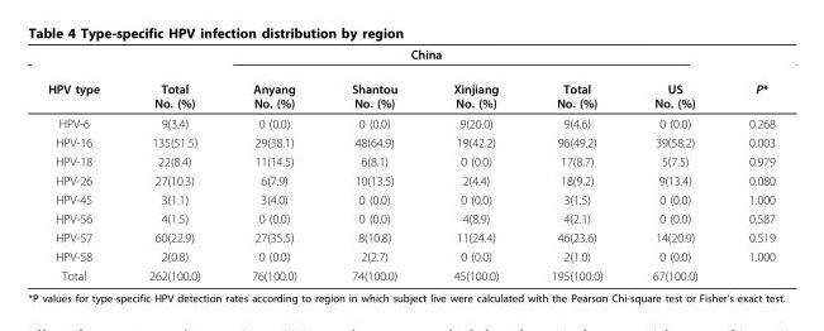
<table><thead><tr><td rowspan="2">HPV type</td><td rowspan="2">Total No. (%)</td><td colspan="4">China</td><td rowspan="2">US No. (%)</td><td rowspan="2">P*</td></tr><tr><td>Anyang No. (%)</td><td>Shantou No. (%)</td><td>Xinjiang No. (%)</td><td>Total No. (%)</td></tr></thead><tbody><tr><td>HPV-6</td><td>9(3.4)</td><td>0 (0.0)</td><td>0 (0.0)</td><td>9(20.0)</td><td>9(4.6)</td><td>0 (0.0)</td><td>0.268</td></tr><tr><td>HPV-16</td><td>135(51.5)</td><td>29(38.1)</td><td>48(64.9)</td><td>19(42.2)</td><td>96(49.2)</td><td>39(58.2)</td><td>0.003</td></tr><tr><td>HPV-18</td><td>22(8.4)</td><td>11(14.5)</td><td>6(8.1)</td><td>0 (0.0)</td><td>17(8.7)</td><td>5(7.5)</td><td>0.979</td></tr><tr><td>HPV-26</td><td>27(10.3)</td><td>6(7.9)</td><td>10(13.5)</td><td>2(4.4)</td><td>18(9.2)</td><td>9(13.4)</td><td>0.080</td></tr><tr><td>HPV-45</td><td>3(1.1)</td><td>3(4.0)</td><td>0 (0.0)</td><td>0 (0.0)</td><td>3(1.5)</td><td>0 (0.0)</td><td>1.000</td></tr><tr><td>HPV-56</td><td>4(1.5)</td><td>0 (0.0)</td><td>0 (0.0)</td><td>4(8.9)</td><td>4(2.1)</td><td>0 (0.0)</td><td>0.587</td></tr><tr><td>HPV-57</td><td>60(22.9)</td><td>27(35.5)</td><td>8(10.8)</td><td>11(24.4)</td><td>46(23.6)</td><td>14(20.9)</td><td>0.519</td></tr><tr><td>HPV-58</td><td>2(0.8)</td><td>0 (0.0)</td><td>2(2.7)</td><td>0 (0.0)</td><td>2(1.0)</td><td>0 (0.0)</td><td>1.000</td></tr><tr><td>Total</td><td>262(100.0)</td><td>76(100.0)</td><td>74(100.0)</td><td>45(100.0)</td><td>195(100.0)</td><td>67(100.0)</td><td></td></tr></tbody></table>